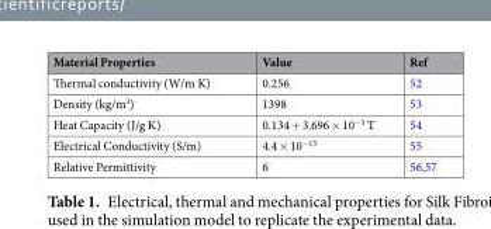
<table><thead><tr><td>Material Properties</td><td>Value</td><td>Ref</td></tr></thead><tbody><tr><td>Thermal conductivity (W/m K)</td><td>0.256</td><td>52</td></tr><tr><td>Density (kg/m<sup>3</sup>)</td><td>1398</td><td>53</td></tr><tr><td>Heat Capacity (J/g K)</td><td>0.134 + 3.696 × 10<sup>−3</sup> T</td><td>54</td></tr><tr><td>Electrical Conductivity (S/m)</td><td>4.4 × 10<sup>−13</sup></td><td>55</td></tr><tr><td>Relative Permittivity</td><td>6</td><td>56,57</td></tr></tbody></table>